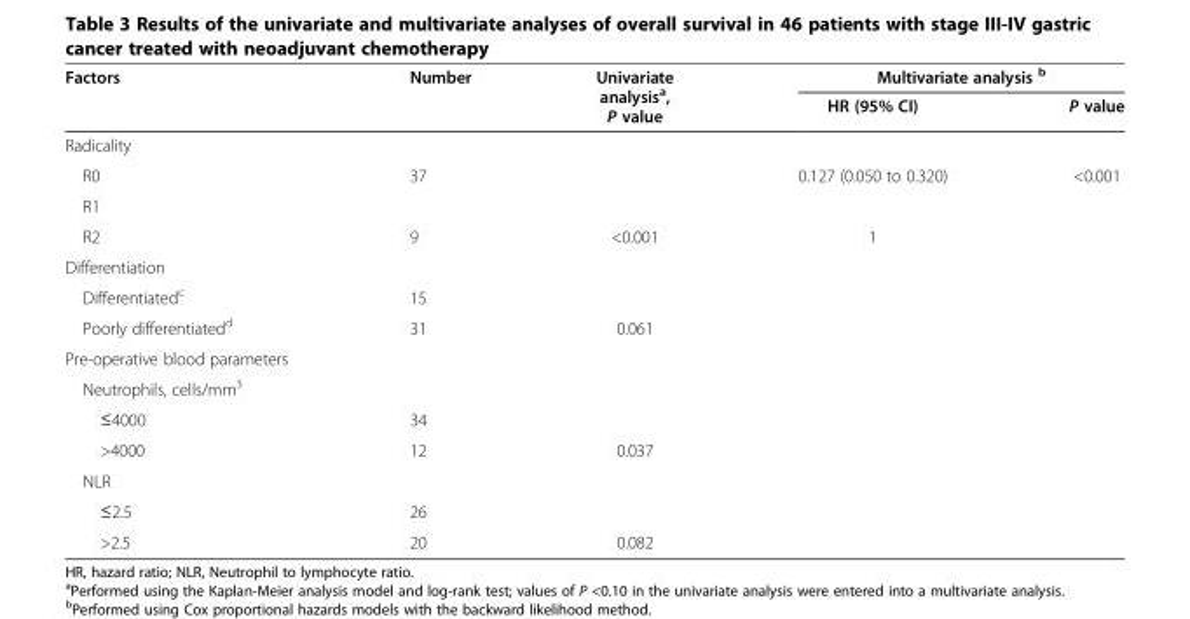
<table><thead><tr><td rowspan="2">Factors</td><td rowspan="2">Number</td><td rowspan="2">Univariate analysis<sup>a</sup>, P value</td><td colspan="2">Multivariate analysis <sup>b</sup></td></tr><tr><td>HR (95% CI)</td><td>P value</td></tr></thead><tbody><tr><td colspan="5">Radicality</td></tr><tr><td>R0</td><td>37</td><td></td><td>0.127 (0.050 to 0.320)</td><td>&lt;0.001</td></tr><tr><td colspan="5">R1</td></tr><tr><td>R2</td><td>9</td><td>&lt;0.001</td><td>1</td><td></td></tr><tr><td colspan="5">Differentiation</td></tr><tr><td>Differentiated<sup>c</sup></td><td>15</td><td></td><td></td><td></td></tr><tr><td>Poorly differentiated<sup>d</sup></td><td>31</td><td>0.061</td><td></td><td></td></tr><tr><td colspan="5">Pre-operative blood parameters</td></tr><tr><td colspan="5">Neutrophils, cells/mm<sup>3</sup></td></tr><tr><td>≤4000</td><td>34</td><td></td><td></td><td></td></tr><tr><td>&gt;4000</td><td>12</td><td>0.037</td><td></td><td></td></tr><tr><td colspan="5">NLR</td></tr><tr><td>≤2.5</td><td>26</td><td></td><td></td><td></td></tr><tr><td>&gt;2.5</td><td>20</td><td>0.082</td><td></td><td></td></tr></tbody></table>